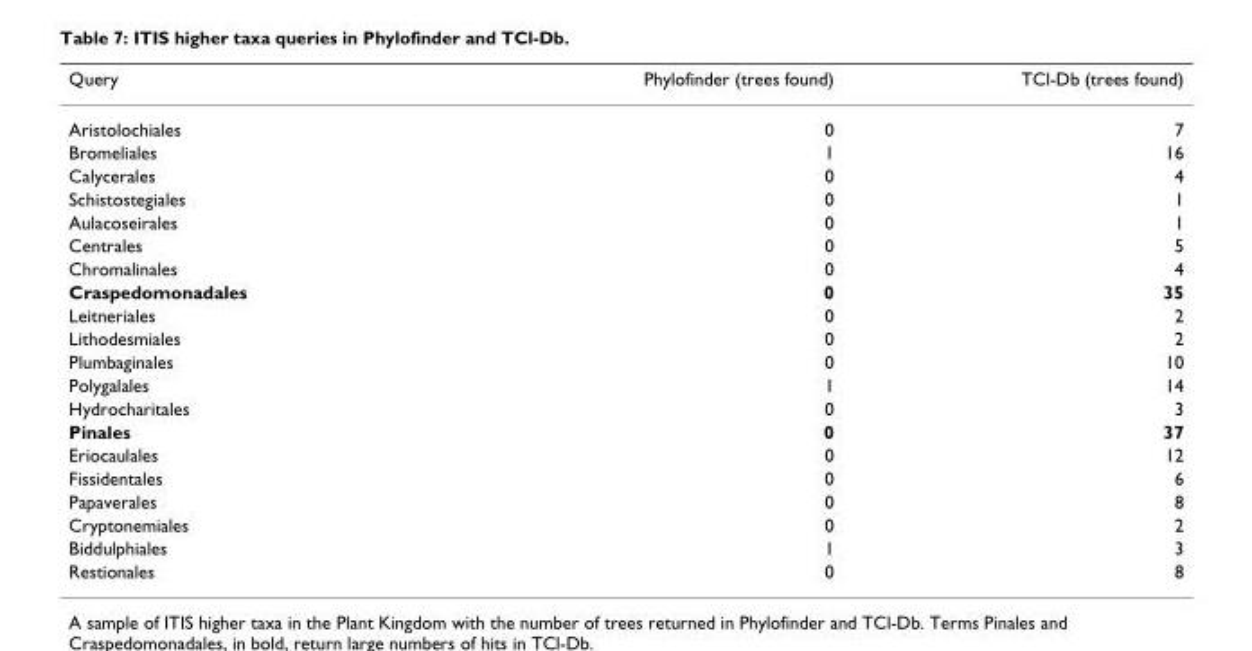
<table><thead><tr><td>Query</td><td>Phylofinder (trees found)</td><td>TCl-Db (trees found)</td></tr></thead><tbody><tr><td>Aristolochiales</td><td>0</td><td>7</td></tr><tr><td>Bromeliales</td><td>1</td><td>16</td></tr><tr><td>Calycerales</td><td>0</td><td>4</td></tr><tr><td>Schistostegiales</td><td>0</td><td>1</td></tr><tr><td>Aulacoseirales</td><td>0</td><td>1</td></tr><tr><td>Centrales</td><td>0</td><td>5</td></tr><tr><td>Chromalinales</td><td>0</td><td>4</td></tr><tr><td>Craspedomonadales</td><td>0</td><td>35</td></tr><tr><td>Leitneriales</td><td>0</td><td>2</td></tr><tr><td>Lithodesmiales</td><td>0</td><td>2</td></tr><tr><td>Plumbaginales</td><td>0</td><td>10</td></tr><tr><td>Polygalales</td><td>1</td><td>14</td></tr><tr><td>Hydrocharitales</td><td>0</td><td>3</td></tr><tr><td>Pinales</td><td>0</td><td>37</td></tr><tr><td>Eriocaulales</td><td>0</td><td>12</td></tr><tr><td>Fissidentales</td><td>0</td><td>6</td></tr><tr><td>Papaverales</td><td>0</td><td>8</td></tr><tr><td>Cryptonemiales</td><td>0</td><td>2</td></tr><tr><td>Biddulphiales</td><td>1</td><td>3</td></tr><tr><td>Restionales</td><td>0</td><td>8</td></tr></tbody></table>